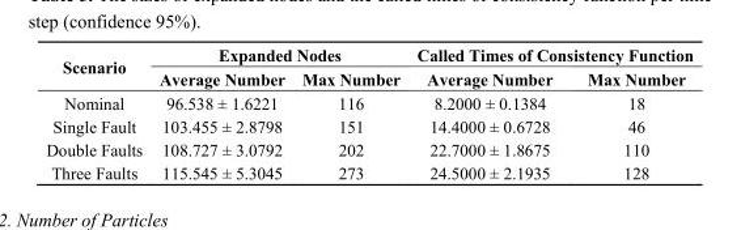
<table><thead><tr><td rowspan="2">Scenario</td><td colspan="2">Expanded Nodes</td><td colspan="2">Called Times of Consistency Function</td></tr><tr><td>Average Number</td><td>Max Number</td><td>Average Number</td><td>Max Number</td></tr></thead><tbody><tr><td>Nominal</td><td>96.538 ± 1.6221</td><td>116</td><td>8.2000 ± 0.1384</td><td>18</td></tr><tr><td>Single Fault</td><td>103.455 ± 2.8798</td><td>151</td><td>14.4000 ± 0.6728</td><td>46</td></tr><tr><td>Double Faults</td><td>108.727 ± 3.0792</td><td>202</td><td>22.7000 ± 1.8675</td><td>110</td></tr><tr><td>Three Faults</td><td>115.545 ± 5.3045</td><td>273</td><td>24.5000 ± 2.1935</td><td>128</td></tr></tbody></table>